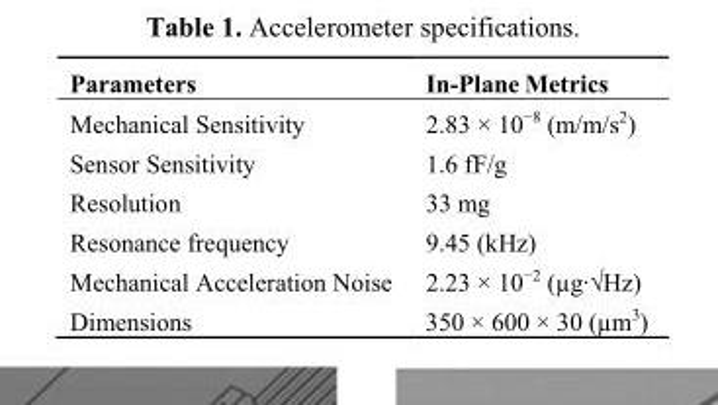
<table><thead><tr><td>Parameters</td><td>In-Plane Metrics</td></tr></thead><tbody><tr><td>Mechanical Sensitivity</td><td>2.83 × 10<sup>−8</sup> (m/m/s<sup>2</sup>)</td></tr><tr><td>Sensor Sensitivity</td><td>1.6 fF/g</td></tr><tr><td>Resolution</td><td>33 mg</td></tr><tr><td>Resonance frequency</td><td>9.45 (kHz)</td></tr><tr><td>Mechanical Acceleration Noise</td><td>2.23 × 10−2 (µg·√Hz)</td></tr><tr><td>Dimensions</td><td>350 × 600 × 30 (µm<sup>3</sup>)</td></tr></tbody></table>